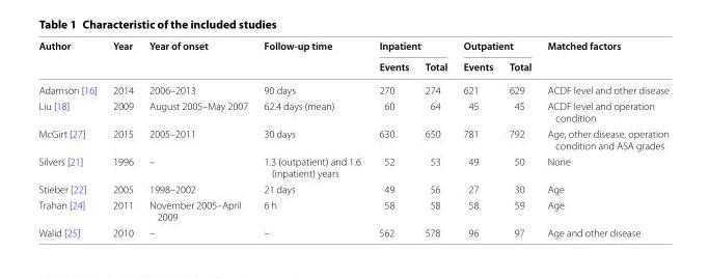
<table><thead><tr><td rowspan="2">Author</td><td rowspan="2">Year</td><td rowspan="2">Year of onset</td><td rowspan="2">Follow‑up time</td><td colspan="2">Inpatient</td><td colspan="2">Outpatient</td><td rowspan="2">Matched factors</td></tr><tr><td>Events</td><td>Total</td><td>Events</td><td>Total</td></tr></thead><tbody><tr><td>Adamson [16]</td><td>2014</td><td>2006–2013</td><td>90 days</td><td>270</td><td>274</td><td>621</td><td>629</td><td>ACDF level and other disease</td></tr><tr><td>Liu [18]</td><td>2009</td><td>August 2005–May 2007</td><td>62.4 days (mean)</td><td>60</td><td>64</td><td>45</td><td>45</td><td>ACDF level and operation condition</td></tr><tr><td>McGirt [27]</td><td>2015</td><td>2005–2011</td><td>30 days</td><td>630</td><td>650</td><td>781</td><td>792</td><td>Age, other disease, operation condition and ASA grades</td></tr><tr><td>Silvers [21]</td><td>1996</td><td>–</td><td>1.3 (outpatient) and 1.6 (inpatient) years</td><td>52</td><td>53</td><td>49</td><td>50</td><td>None</td></tr><tr><td>Stieber [22]</td><td>2005</td><td>1998–2002</td><td>21 days</td><td>49</td><td>56</td><td>27</td><td>30</td><td>Age</td></tr><tr><td>Trahan [24]</td><td>2011</td><td>November 2005–April 2009</td><td>6 h</td><td>58</td><td>58</td><td>58</td><td>59</td><td>Age</td></tr><tr><td>Walid [25]</td><td>2010</td><td>–</td><td>–</td><td>562</td><td>578</td><td>96</td><td>97</td><td>Age and other disease</td></tr></tbody></table>